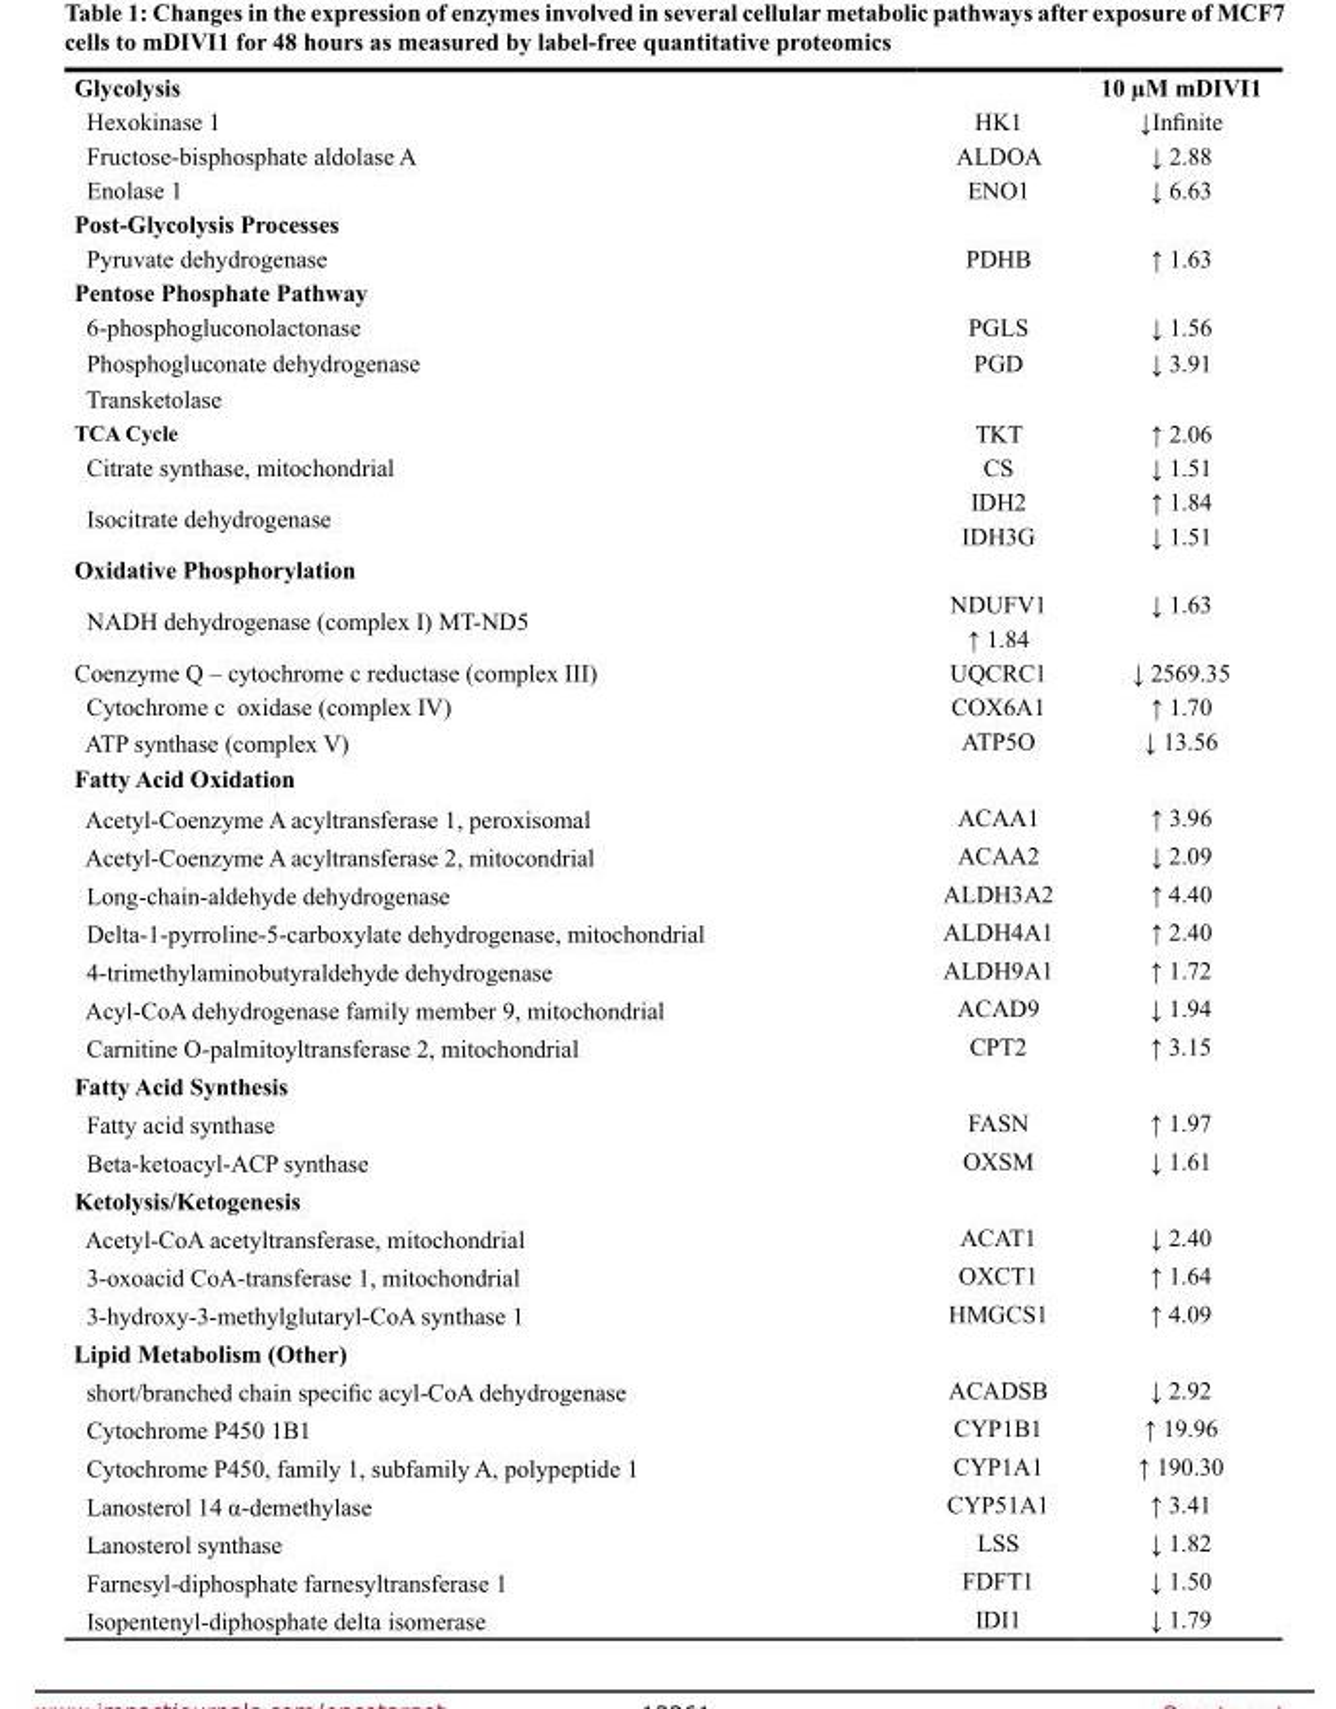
<table><thead><tr><td>Glycolysis</td><td></td><td>10 µM mDIVI1</td></tr></thead><tbody><tr><td>Hexokinase 1</td><td>HK1</td><td>↓Infi nite</td></tr><tr><td>Fructose-bisphosphate aldolase A</td><td>ALDOA</td><td>↓ 2.88</td></tr><tr><td>Enolase 1</td><td>ENO1</td><td>↓ 6.63</td></tr><tr><td colspan="3">Post-Glycolysis Processes</td></tr><tr><td>Pyruvate dehydrogenase</td><td>PDHB</td><td>↑ 1.63</td></tr><tr><td colspan="3">Pentose Phosphate Pathway</td></tr><tr><td>6-phosphogluconolactonase</td><td>PGLS</td><td>↓ 1.56</td></tr><tr><td>Phosphogluconate dehydrogenase</td><td>PGD</td><td>↓ 3.91</td></tr><tr><td colspan="3">Transketolase</td></tr><tr><td>TCA Cycle</td><td>TKT</td><td>↑ 2.06</td></tr><tr><td>Citrate synthase, mitochondrial</td><td>CS</td><td>↓ 1.51</td></tr><tr><td rowspan="2">Isocitrate dehydrogenase</td><td>IDH2</td><td>↑ 1.84</td></tr><tr><td>IDH3G</td><td>↓ 1.51</td></tr><tr><td colspan="3">Oxidative Phosphorylation</td></tr><tr><td rowspan="2">NADH dehydrogenase (complex I) MT-ND5</td><td>NDUFV1</td><td>↓ 1.63</td></tr><tr><td>↑ 1.84</td><td></td></tr><tr><td>Coenzyme Q – cytochrome c reductase (complex III)</td><td>UQCRC1</td><td>↓ 2569.35</td></tr><tr><td>Cytochrome c oxidase (complex IV)</td><td>COX6A1</td><td>↑ 1.70</td></tr><tr><td>ATP synthase (complex V)</td><td>ATP5O</td><td>↓ 13.56</td></tr><tr><td colspan="3">Fatty Acid Oxidation</td></tr><tr><td>Acetyl-Coenzyme A acyltransferase 1, peroxisomal</td><td>ACAA1</td><td>↑ 3.96</td></tr><tr><td>Acetyl-Coenzyme A acyltransferase 2, mitocondrial</td><td>ACAA2</td><td>↓ 2.09</td></tr><tr><td>Long-chain-aldehyde dehydrogenase</td><td>ALDH3A2</td><td>↑ 4.40</td></tr><tr><td>Delta-1-pyrroline-5-carboxylate dehydrogenase, mitochondrial</td><td>ALDH4A1</td><td>↑ 2.40</td></tr><tr><td>4-trimethylaminobutyraldehyde dehydrogenase</td><td>ALDH9A1</td><td>↑ 1.72</td></tr><tr><td>Acyl-CoA dehydrogenase family member 9, mitochondrial</td><td>ACAD9</td><td>↓ 1.94</td></tr><tr><td>Carnitine O-palmitoyltransferase 2, mitochondrial</td><td>CPT2</td><td>↑ 3.15</td></tr><tr><td colspan="3">Fatty Acid Synthesis</td></tr><tr><td>Fatty acid synthase</td><td>FASN</td><td>↑ 1.97</td></tr><tr><td>Beta-ketoacyl-ACP synthase</td><td>OXSM</td><td>↓ 1.61</td></tr><tr><td colspan="3">Ketolysis/Ketogenesis</td></tr><tr><td>Acetyl-CoA acetyltransferase, mitochondrial</td><td>ACAT1</td><td>↓ 2.40</td></tr><tr><td>3-oxoacid CoA-transferase 1, mitochondrial</td><td>OXCT1</td><td>↑ 1.64</td></tr><tr><td>3-hydroxy-3-methylglutaryl-CoA synthase 1</td><td>HMGCS1</td><td>↑ 4.09</td></tr><tr><td colspan="3">Lipid Metabolism (Other)</td></tr><tr><td>short/branched chain specifi c acyl-CoA dehydrogenase</td><td>ACADSB</td><td>↓ 2.92</td></tr><tr><td>Cytochrome P450 1B1</td><td>CYP1B1</td><td>↑ 19.96</td></tr><tr><td>Cytochrome P450, family 1, subfamily A, polypeptide 1</td><td>CYP1A1</td><td>↑ 190.30</td></tr><tr><td>Lanosterol 14 α-demethylase</td><td>CYP51A1</td><td>↑ 3.41</td></tr><tr><td>Lanosterol synthase</td><td>LSS</td><td>↓ 1.82</td></tr><tr><td>Farnesyl-diphosphate farnesyltransferase 1</td><td>FDFT1</td><td>↓ 1.50</td></tr><tr><td>Isopentenyl-diphosphate delta isomerase</td><td>IDI1</td><td>↓ 1.79</td></tr></tbody></table>